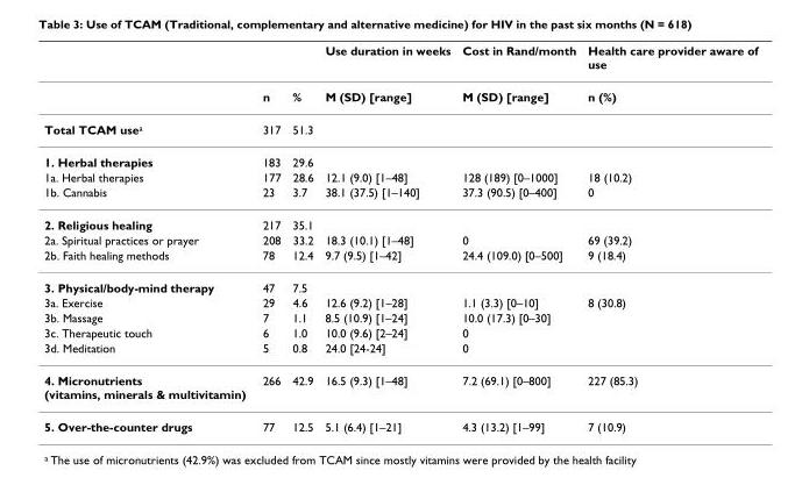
<table><thead><tr><td></td><td></td><td></td><td>Use duration in weeks</td><td>Cost in Rand/month</td><td>Health care provider aware of use</td></tr></thead><tbody><tr><td></td><td>n</td><td>%</td><td>M (SD) [range]</td><td>M (SD) [range]</td><td>n (%)</td></tr><tr><td>Total TCAM use<sup>a</sup></td><td>317</td><td>51.3</td><td></td><td></td><td></td></tr><tr><td>1. Herbal therapies</td><td>183</td><td>29.6</td><td></td><td></td><td></td></tr><tr><td>1a. Herbal therapies</td><td>177</td><td>28.6</td><td>12.1 (9.0) [1–48]</td><td>128 (189) [0–1000]</td><td>18 (10.2)</td></tr><tr><td>1b. Cannabis</td><td>23</td><td>3.7</td><td>38.1 (37.5) [1–140]</td><td>37.3 (90.5) [0–400]</td><td>0</td></tr><tr><td>2. Religious healing</td><td>217</td><td>35.1</td><td></td><td></td><td></td></tr><tr><td>2a. Spiritual practices or prayer</td><td>208</td><td>33.2</td><td>18.3 (10.1) [1–48]</td><td>0</td><td>69 (39.2)</td></tr><tr><td>2b. Faith healing methods</td><td>78</td><td>12.4</td><td>9.7 (9.5) [1–42]</td><td>24.4 (109.0) [0–500]</td><td>9 (18.4)</td></tr><tr><td>3. Physical/body-mind therapy</td><td>47</td><td>7.5</td><td></td><td></td><td></td></tr><tr><td>3a. Exercise</td><td>29</td><td>4.6</td><td>12.6 (9.2) [1–28]</td><td>1.1 (3.3) [0–10]</td><td>8 (30.8)</td></tr><tr><td>3b. Massage</td><td>7</td><td>1.1</td><td>8.5 (10.9) [1–24]</td><td>10.0 (17.3) [0–30]</td><td></td></tr><tr><td>3c. Therapeutic touch</td><td>6</td><td>1.0</td><td>10.0 (9.6) [2–24]</td><td>0</td><td></td></tr><tr><td>3d. Meditation</td><td>5</td><td>0.8</td><td>24.0 [24-24]</td><td>0</td><td></td></tr><tr><td>4. Micronutrients (vitamins, minerals &amp; multivitamin)</td><td>266</td><td>42.9</td><td>16.5 (9.3) [1–48]</td><td>7.2 (69.1) [0–800]</td><td>227 (85.3)</td></tr><tr><td>5. Over-the-counter drugs</td><td>77</td><td>12.5</td><td>5.1 (6.4) [1–21]</td><td>4.3 (13.2) [1–99]</td><td>7 (10.9)</td></tr></tbody></table>